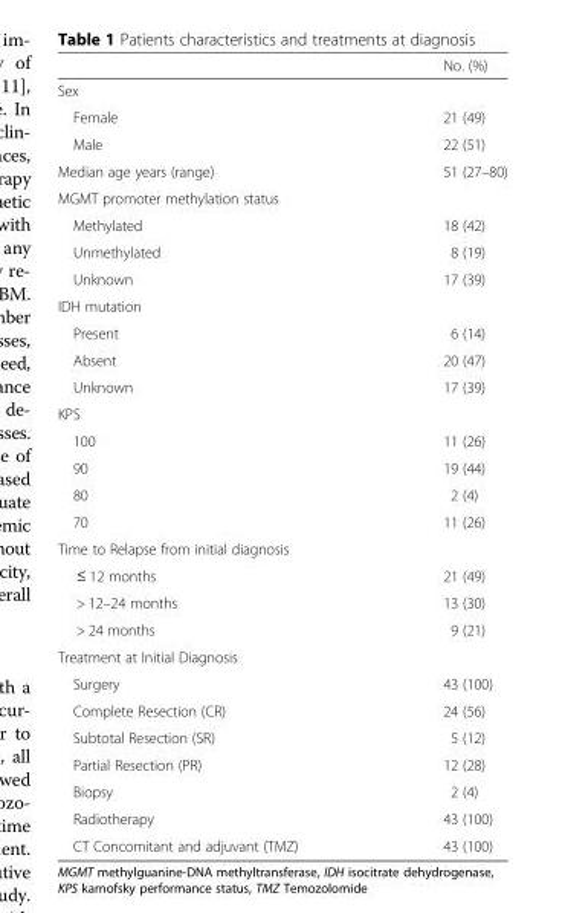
<table><thead><tr><td></td><td>No. (%)</td></tr></thead><tbody><tr><td colspan="2">Sex</td></tr><tr><td>Female</td><td>21 (49)</td></tr><tr><td>Male</td><td>22 (51)</td></tr><tr><td>Median age years (range)</td><td>51 (27–80)</td></tr><tr><td colspan="2">MGMT promoter methylation status</td></tr><tr><td>Methylated</td><td>18 (42)</td></tr><tr><td>Unmethylated</td><td>8 (19)</td></tr><tr><td>Unknown</td><td>17 (39)</td></tr><tr><td colspan="2">IDH mutation</td></tr><tr><td>Present</td><td>6 (14)</td></tr><tr><td>Absent</td><td>20 (47)</td></tr><tr><td>Unknown</td><td>17 (39)</td></tr><tr><td colspan="2">KPS</td></tr><tr><td>100</td><td>11 (26)</td></tr><tr><td>90</td><td>19 (44)</td></tr><tr><td>80</td><td>2 (4)</td></tr><tr><td>70</td><td>11 (26)</td></tr><tr><td colspan="2">Time to Relapse from initial diagnosis</td></tr><tr><td>≤ 12 months</td><td>21 (49)</td></tr><tr><td>&gt; 12–24 months</td><td>13 (30)</td></tr><tr><td>&gt; 24 months</td><td>9 (21)</td></tr><tr><td colspan="2">Treatment at Initial Diagnosis</td></tr><tr><td>Surgery</td><td>43 (100)</td></tr><tr><td>Complete Resection (CR)</td><td>24 (56)</td></tr><tr><td>Subtotal Resection (SR)</td><td>5 (12)</td></tr><tr><td>Partial Resection (PR)</td><td>12 (28)</td></tr><tr><td>Biopsy</td><td>2 (4)</td></tr><tr><td>Radiotherapy</td><td>43 (100)</td></tr><tr><td>CT Concomitant and adjuvant (TMZ)</td><td>43 (100)</td></tr></tbody></table>